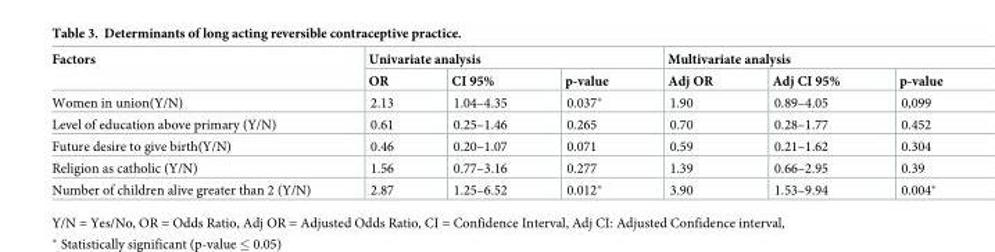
<table><thead><tr><td rowspan="2">Factors</td><td colspan="3">Univariate analysis</td><td colspan="3">Multivariate analysis</td></tr><tr><td>OR</td><td>CI 95%</td><td>p-value</td><td>Adj OR</td><td>Adj CI 95%</td><td>p-value</td></tr></thead><tbody><tr><td>Women in union(Y/N)</td><td>2.13</td><td>1.04–4.35</td><td>0.037*</td><td>1.90</td><td>0.89–4.05</td><td>0,099</td></tr><tr><td>Level of education above primary (Y/N)</td><td>0.61</td><td>0.25–1.46</td><td>0.265</td><td>0.70</td><td>0.28–1.77</td><td>0.452</td></tr><tr><td>Future desire to give birth(Y/N)</td><td>0.46</td><td>0.20–1.07</td><td>0.071</td><td>0.59</td><td>0.21–1.62</td><td>0.304</td></tr><tr><td>Religion as catholic (Y/N)</td><td>1.56</td><td>0.77–3.16</td><td>0.277</td><td>1.39</td><td>0.66–2.95</td><td>0.39</td></tr><tr><td>Number of children alive greater than 2 (Y/N)</td><td>2.87</td><td>1.25–6.52</td><td>0.012*</td><td>3.90</td><td>1.53–9.94</td><td>0.004*</td></tr></tbody></table>